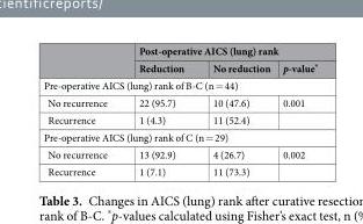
<table><thead><tr><td rowspan="2"></td><td colspan="3">Post-operative AICS (lung) rank</td></tr><tr><td>Reduction</td><td>No reduction</td><td>p-value*</td></tr></thead><tbody><tr><td colspan="4">Pre-operative AICS (lung) rank of B-C (n = 44)</td></tr><tr><td>No recurrence</td><td>22 (95.7)</td><td>10 (47.6)</td><td>0.001</td></tr><tr><td>Recurrence</td><td>1 (4.3)</td><td>11 (52.4)</td><td></td></tr><tr><td colspan="4">Pre-operative AICS (lung) rank of C (n = 29)</td></tr><tr><td>No recurrence</td><td>13 (92.9)</td><td>4 (26.7)</td><td>0.002</td></tr><tr><td>Recurrence</td><td>1 (7.1)</td><td>11 (73.3)</td><td></td></tr></tbody></table>